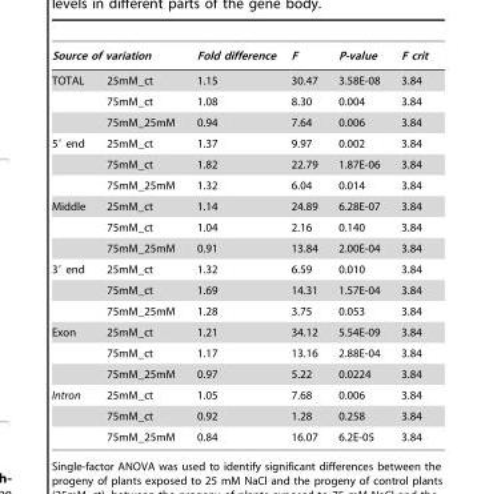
<table><thead><tr><td colspan="2">Source of variation</td><td rowspan="2">Fold difference 1.15</td><td rowspan="2">F 30.47</td><td rowspan="2">P-value 3.58E-08</td><td rowspan="2">F crit 3.84</td></tr><tr><td>TOTAL</td><td>25mM_ct</td></tr></thead><tbody><tr><td></td><td>75mM_ct</td><td>1.08</td><td>8.30</td><td>0.004</td><td>3.84</td></tr><tr><td></td><td>75mM_25mM</td><td>0.94</td><td>7.64</td><td>0.006</td><td>3.84</td></tr><tr><td rowspan="3">5′ end</td><td>25mM_ct</td><td>1.37</td><td>9.97</td><td>0.002</td><td>3.84</td></tr><tr><td>75mM_ct</td><td>1.82</td><td>22.79</td><td>1.87E-06</td><td>3.84</td></tr><tr><td>75mM_25mM</td><td>1.32</td><td>6.04</td><td>0.014</td><td>3.84</td></tr><tr><td rowspan="3">Middle</td><td>25mM_ct</td><td>1.14</td><td>24.89</td><td>6.28E-07</td><td>3.84</td></tr><tr><td>75mM_ct</td><td>1.04</td><td>2.16</td><td>0.140</td><td>3.84</td></tr><tr><td>75mM_25mM</td><td>0.91</td><td>13.84</td><td>2.00E-04</td><td>3.84</td></tr><tr><td rowspan="3">3′ end</td><td>25mM_ct</td><td>1.32</td><td>6.59</td><td>0.010</td><td>3.84</td></tr><tr><td>75mM_ct</td><td>1.69</td><td>14.31</td><td>1.57E-04</td><td>3.84</td></tr><tr><td>75mM_25mM</td><td>1.28</td><td>3.75</td><td>0.053</td><td>3.84</td></tr><tr><td rowspan="3">Exon</td><td>25mM_ct</td><td>1.21</td><td>34.12</td><td>5.54E-09</td><td>3.84</td></tr><tr><td>75mM_ct</td><td>1.17</td><td>13.16</td><td>2.88E-04</td><td>3.84</td></tr><tr><td>75mM_25mM</td><td>0.97</td><td>5.22</td><td>0.0224</td><td>3.84</td></tr><tr><td rowspan="3">Intron</td><td>25mM_ct</td><td>1.05</td><td>7.68</td><td>0.006</td><td>3.84</td></tr><tr><td>75mM_ct</td><td>0.92</td><td>1.28</td><td>0.258</td><td>3.84</td></tr><tr><td>75mM_25mM</td><td>0.84</td><td>16.07</td><td>6.2E-05</td><td>3.84</td></tr></tbody></table>